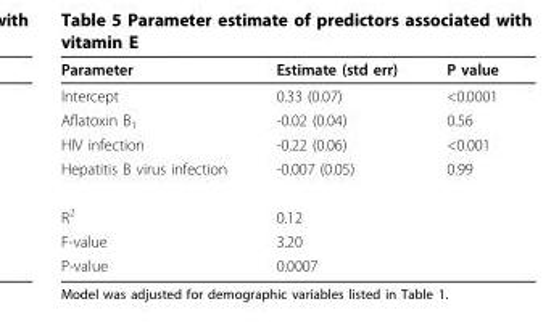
<table><thead><tr><td>Parameter</td><td>Estimate (std err)</td><td>P value</td></tr></thead><tbody><tr><td>Intercept</td><td>0.33 (0.07)</td><td>&lt;0.0001</td></tr><tr><td>Aflatoxin B<sub>1</sub></td><td>-0.02 (0.04)</td><td>0.56</td></tr><tr><td>HIV infection</td><td>-0.22 (0.06)</td><td>&lt;0.001</td></tr><tr><td>Hepatitis B virus infection</td><td>-0.007 (0.05)</td><td>0.99</td></tr><tr><td>R<sup>2</sup></td><td>0.12</td><td></td></tr><tr><td>F-value</td><td>3.20</td><td></td></tr><tr><td>P-value</td><td>0.0007</td><td></td></tr></tbody></table>